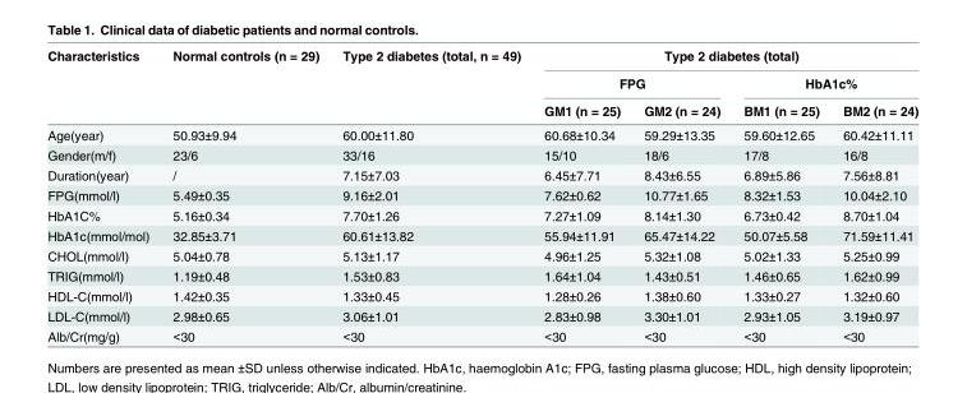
<table><thead><tr><td rowspan="3">Characteristics</td><td rowspan="3">Normal controls (n = 29)</td><td rowspan="3">Type 2 diabetes (total, n = 49)</td><td colspan="4">Type 2 diabetes (total)</td></tr><tr><td colspan="2">FPG</td><td colspan="2">HbA1c%</td></tr><tr><td>GM1 (n = 25)</td><td>GM2 (n = 24)</td><td>BM1 (n = 25)</td><td>BM2 (n = 24)</td></tr></thead><tbody><tr><td>Age(year)</td><td>50.93±9.94</td><td>60.00±11.80</td><td>60.68±10.34</td><td>59.29±13.35</td><td>59.60±12.65</td><td>60.42±11.11</td></tr><tr><td>Gender(m/f)</td><td>23/6</td><td>33/16</td><td>15/10</td><td>18/6</td><td>17/8</td><td>16/8</td></tr><tr><td>Duration(year)</td><td>/</td><td>7.15±7.03</td><td>6.45±7.71</td><td>8.43±6.55</td><td>6.89±5.86</td><td>7.56±8.81</td></tr><tr><td>FPG(mmol/l)</td><td>5.49±0.35</td><td>9.16±2.01</td><td>7.62±0.62</td><td>10.77±1.65</td><td>8.32±1.53</td><td>10.04±2.10</td></tr><tr><td>HbA1C%</td><td>5.16±0.34</td><td>7.70±1.26</td><td>7.27±1.09</td><td>8.14±1.30</td><td>6.73±0.42</td><td>8.70±1.04</td></tr><tr><td>HbA1c(mmol/mol)</td><td>32.85±3.71</td><td>60.61±13.82</td><td>55.94±11.91</td><td>65.47±14.22</td><td>50.07±5.58</td><td>71.59±11.41</td></tr><tr><td>CHOL(mmol/l)</td><td>5.04±0.78</td><td>5.13±1.17</td><td>4.96±1.25</td><td>5.32±1.08</td><td>5.02±1.33</td><td>5.25±0.99</td></tr><tr><td>TRIG(mmol/l)</td><td>1.19±0.48</td><td>1.53±0.83</td><td>1.64±1.04</td><td>1.43±0.51</td><td>1.46±0.65</td><td>1.62±0.99</td></tr><tr><td>HDL-C(mmol/l)</td><td>1.42±0.35</td><td>1.33±0.45</td><td>1.28±0.26</td><td>1.38±0.60</td><td>1.33±0.27</td><td>1.32±0.60</td></tr><tr><td>LDL-C(mmol/l)</td><td>2.98±0.65</td><td>3.06±1.01</td><td>2.83±0.98</td><td>3.30±1.01</td><td>2.93±1.05</td><td>3.19±0.97</td></tr><tr><td>Alb/Cr(mg/g)</td><td>&lt;30</td><td>&lt;30</td><td>&lt;30</td><td>&lt;30</td><td>&lt;30</td><td>&lt;30</td></tr></tbody></table>